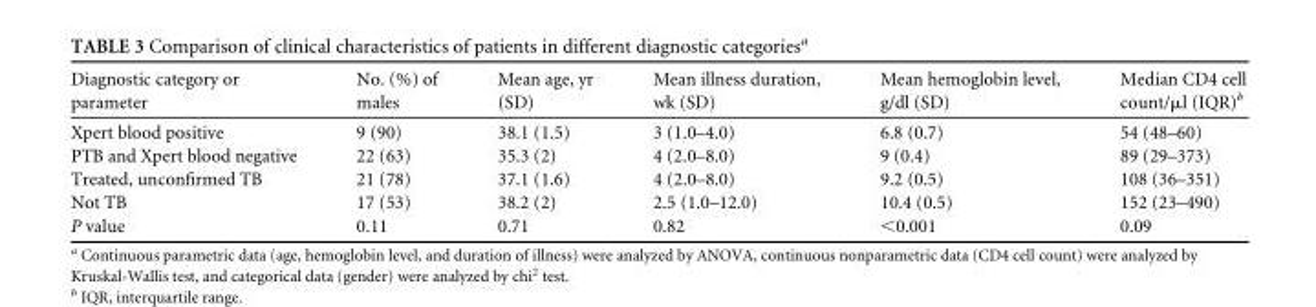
<table><thead><tr><td>Diagnostic category or parameter</td><td>No. (%) of males</td><td>Mean age, yr (SD)</td><td>Mean illness duration, wk (SD)</td><td>Mean hemoglobin level, g/dl (SD)</td><td>Median CD4 cell count/μl (IQR)<sup>b</sup></td></tr></thead><tbody><tr><td>Xpert blood positive</td><td>9 (90)</td><td>38.1 (1.5)</td><td>3 (1.0–4.0)</td><td>6.8 (0.7)</td><td>54 (48–60)</td></tr><tr><td>PTB and Xpert blood negative</td><td>22 (63)</td><td>35.3 (2)</td><td>4 (2.0–8.0)</td><td>9 (0.4)</td><td>89 (29–373)</td></tr><tr><td>Treated, unconfirmed TB</td><td>21 (78)</td><td>37.1 (1.6)</td><td>4 (2.0–8.0)</td><td>9.2 (0.5)</td><td>108 (36–351)</td></tr><tr><td>Not TB</td><td>17 (53)</td><td>38.2 (2)</td><td>2.5 (1.0–12.0)</td><td>10.4 (0.5)</td><td>152 (23–490)</td></tr><tr><td>P value</td><td>0.11</td><td>0.71</td><td>0.82</td><td>&lt;0.001</td><td>0.09</td></tr></tbody></table>